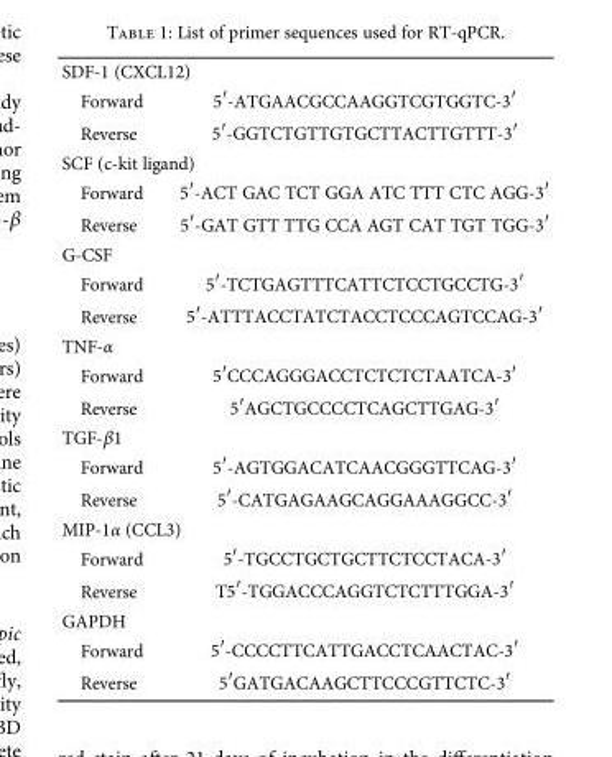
<table><tbody><tr><td colspan="2">SDF-1 (CXCL12)</td></tr><tr><td>Forward</td><td>5′-ATGAACGCCAAGGTCGTGGTC-3′</td></tr><tr><td>Reverse</td><td>5′-GGTCTGTTGTGCTTACTTGTTT-3′</td></tr><tr><td colspan="2">SCF (c-kit ligand)</td></tr><tr><td>Forward</td><td>5′-ACT GAC TCT GGA ATC TTT CTC AGG-3′</td></tr><tr><td>Reverse</td><td>5′-GAT GTT TTG CCA AGT CAT TGT TGG-3′</td></tr><tr><td colspan="2">G-CSF</td></tr><tr><td>Forward</td><td>5′-TCTGAGTTTCATTCTCCTGCCTG-3′</td></tr><tr><td>Reverse</td><td>5′-ATTTACCTATCTACCTCCCAGTCCAG-3′</td></tr><tr><td colspan="2">TNF-α</td></tr><tr><td>Forward</td><td>5′CCCAGGGACCTCTCTCTAATCA-3′</td></tr><tr><td>Reverse</td><td>5′AGCTGCCCCTCAGCTTGAG-3′</td></tr><tr><td colspan="2">TGF-β1</td></tr><tr><td>Forward</td><td>5′-AGTGGACATCAACGGGTTCAG-3′</td></tr><tr><td>Reverse</td><td>5′-CATGAGAAGCAGGAAAGGCC-3′</td></tr><tr><td colspan="2">MIP-1α (CCL3)</td></tr><tr><td>Forward</td><td>5′-TGCCTGCTGCTTCTCCTACA-3′</td></tr><tr><td>Reverse</td><td>T5′-TGGACCCAGGTCTCTTTGGA-3′</td></tr><tr><td colspan="2">GAPDH</td></tr><tr><td>Forward</td><td>5′-CCCCTTCATTGACCTCAACTAC-3′</td></tr><tr><td>Reverse</td><td>5′GATGACAAGCTTCCCGTTCTC-3′</td></tr></tbody></table>